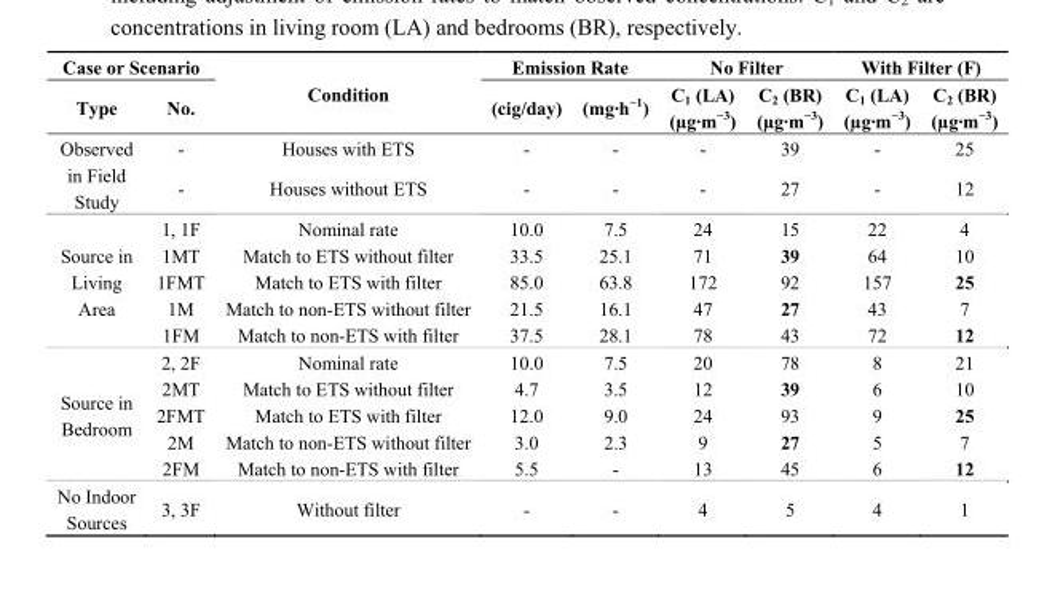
<table><thead><tr><td colspan="2">Case or Scenario</td><td rowspan="2">Condition</td><td colspan="2">Emission Rate</td><td colspan="2">No Filter</td><td colspan="2">With Filter (F)</td></tr><tr><td>Type</td><td>No.</td><td>(cig/day)</td><td>(mg·h<sup>−1</sup>)</td><td>C<sub>1</sub> (LA) (µg·m<sup>−3</sup>)</td><td>C<sub>2</sub> (BR) (µg·m<sup>−3</sup>)</td><td>C<sub>1</sub> (LA) (µg·m<sup>−3</sup>)</td><td>C<sub>2</sub> (BR) (µg·m<sup>−3</sup>)</td></tr></thead><tbody><tr><td rowspan="2">Observed in Field Study</td><td>-</td><td>Houses with ETS</td><td>-</td><td>-</td><td>-</td><td>39</td><td>-</td><td>25</td></tr><tr><td>-</td><td>Houses without ETS</td><td>-</td><td>-</td><td>-</td><td>27</td><td>-</td><td>12</td></tr><tr><td rowspan="5">Source in Living Area</td><td>1, 1F</td><td>Nominal rate</td><td>10.0</td><td>7.5</td><td>24</td><td>15</td><td>22</td><td>4</td></tr><tr><td>1MT</td><td>Match to ETS without filter</td><td>33.5</td><td>25.1</td><td>71</td><td>39</td><td>64</td><td>10</td></tr><tr><td>1FMT</td><td>Match to ETS with filter</td><td>85.0</td><td>63.8</td><td>172</td><td>92</td><td>157</td><td>25</td></tr><tr><td>1M</td><td>Match to non-ETS without filter</td><td>21.5</td><td>16.1</td><td>47</td><td>27</td><td>43</td><td>7</td></tr><tr><td>1FM</td><td>Match to non-ETS with filter</td><td>37.5</td><td>28.1</td><td>78</td><td>43</td><td>72</td><td>12</td></tr><tr><td rowspan="5">Source in Bedroom</td><td>2, 2F</td><td>Nominal rate</td><td>10.0</td><td>7.5</td><td>20</td><td>78</td><td>8</td><td>21</td></tr><tr><td>2MT</td><td>Match to ETS without filter</td><td>4.7</td><td>3.5</td><td>12</td><td>39</td><td>6</td><td>10</td></tr><tr><td>2FMT</td><td>Match to ETS with filter</td><td>12.0</td><td>9.0</td><td>24</td><td>93</td><td>9</td><td>25</td></tr><tr><td>2M</td><td>Match to non-ETS without filter</td><td>3.0</td><td>2.3</td><td>9</td><td>27</td><td>5</td><td>7</td></tr><tr><td>2FM</td><td>Match to non-ETS with filter</td><td>5.5</td><td>-</td><td>13</td><td>45</td><td>6</td><td>12</td></tr><tr><td>No Indoor Sources</td><td>3, 3F</td><td>Without filter</td><td>-</td><td>-</td><td>4</td><td>5</td><td>4</td><td>1</td></tr></tbody></table>